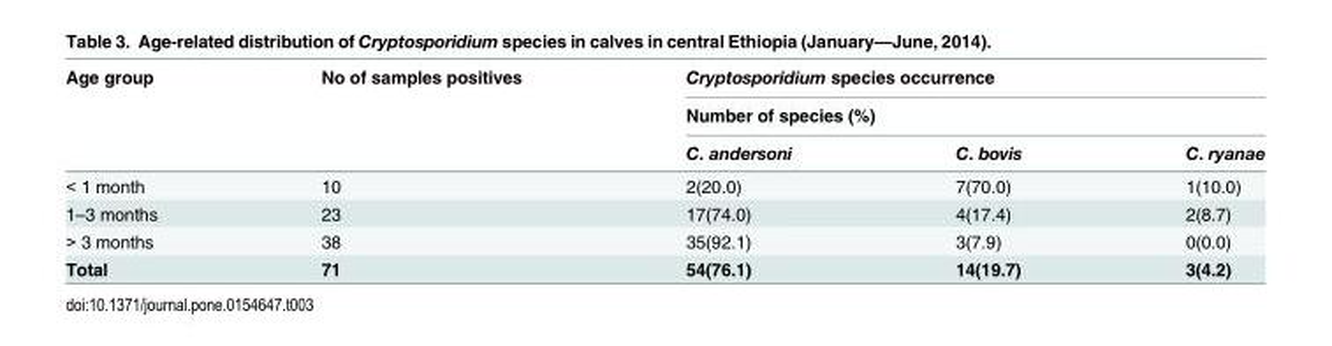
<table><thead><tr><td rowspan="3">Age group</td><td rowspan="3">No of samples positives</td><td rowspan="2" colspan="3">Cryptosporidium species occurrence Number of species (%)</td></tr><tr></tr><tr><td>C. andersoni</td><td>C. bovis</td><td>C. ryanae</td></tr></thead><tbody><tr><td>&lt; 1 month</td><td>10</td><td>2(20.0)</td><td>7(70.0)</td><td>1(10.0)</td></tr><tr><td>1–3 months</td><td>23</td><td>17(74.0)</td><td>4(17.4)</td><td>2(8.7)</td></tr><tr><td>&gt; 3 months</td><td>38</td><td>35(92.1)</td><td>3(7.9)</td><td>0(0.0)</td></tr><tr><td>Total</td><td>71</td><td>54(76.1)</td><td>14(19.7)</td><td>3(4.2)</td></tr></tbody></table>